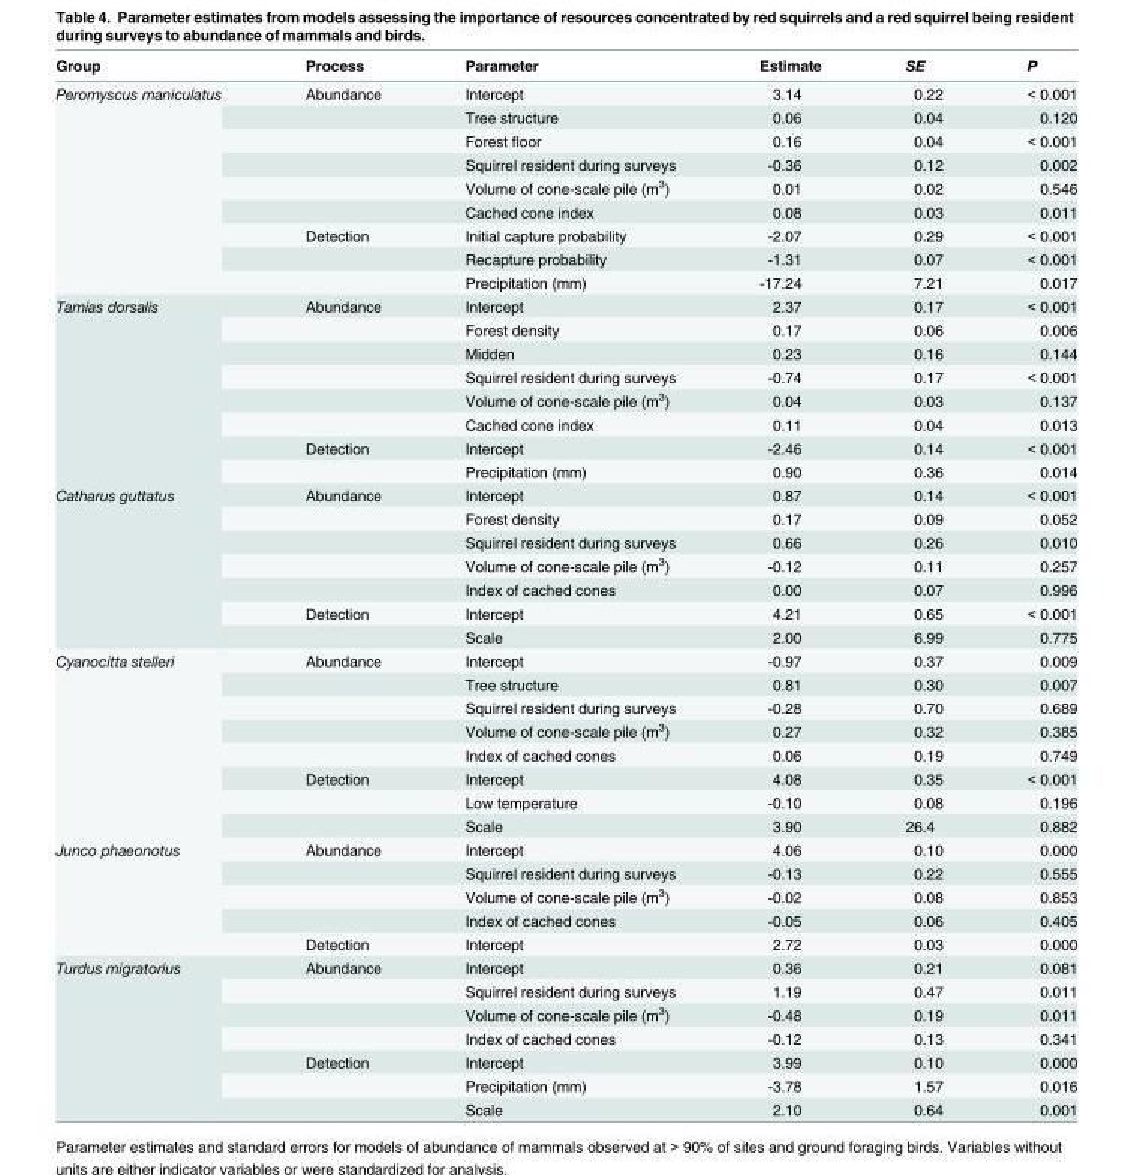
<table><thead><tr><td>Group</td><td>Process</td><td>Parameter</td><td>Estimate</td><td>SE</td><td>P</td></tr></thead><tbody><tr><td rowspan="9">Peromyscus maniculatus</td><td>Abundance</td><td>Intercept</td><td>3.14</td><td>0.22</td><td>&lt; 0.001</td></tr><tr><td></td><td>Tree structure</td><td>0.06</td><td>0.04</td><td>0.120</td></tr><tr><td></td><td>Forest floor</td><td>0.16</td><td>0.04</td><td>&lt; 0.001</td></tr><tr><td></td><td>Squirrel resident during surveys</td><td>-0.36</td><td>0.12</td><td>0.002</td></tr><tr><td></td><td>Volume of cone-scale pile (m<sup>3</sup>)</td><td>0.01</td><td>0.02</td><td>0.546</td></tr><tr><td></td><td>Cached cone index</td><td>0.08</td><td>0.03</td><td>0.011</td></tr><tr><td>Detection</td><td>Initial capture probability</td><td>-2.07</td><td>0.29</td><td>&lt; 0.001</td></tr><tr><td></td><td>Recapture probability</td><td>-1.31</td><td>0.07</td><td>&lt; 0.001</td></tr><tr><td></td><td>Precipitation (mm)</td><td>-17.24</td><td>7.21</td><td>0.017</td></tr><tr><td rowspan="8">Tamias dorsalis</td><td>Abundance</td><td>Intercept</td><td>2.37</td><td>0.17</td><td>&lt; 0.001</td></tr><tr><td></td><td>Forest density</td><td>0.17</td><td>0.06</td><td>0.006</td></tr><tr><td></td><td>Midden</td><td>0.23</td><td>0.16</td><td>0.144</td></tr><tr><td></td><td>Squirrel resident during surveys</td><td>-0.74</td><td>0.17</td><td>&lt; 0.001</td></tr><tr><td></td><td>Volume of cone-scale pile (m<sup>3</sup>)</td><td>0.04</td><td>0.03</td><td>0.137</td></tr><tr><td></td><td>Cached cone index</td><td>0.11</td><td>0.04</td><td>0.013</td></tr><tr><td>Detection</td><td>Intercept</td><td>-2.46</td><td>0.14</td><td>&lt; 0.001</td></tr><tr><td></td><td>Precipitation (mm)</td><td>0.90</td><td>0.36</td><td>0.014</td></tr><tr><td rowspan="7">Catharus guttatus</td><td>Abundance</td><td>Intercept</td><td>0.87</td><td>0.14</td><td>&lt; 0.001</td></tr><tr><td></td><td>Forest density</td><td>0.17</td><td>0.09</td><td>0.052</td></tr><tr><td></td><td>Squirrel resident during surveys</td><td>0.66</td><td>0.26</td><td>0.010</td></tr><tr><td></td><td>Volume of cone-scale pile (m<sup>3</sup>)</td><td>-0.12</td><td>0.11</td><td>0.257</td></tr><tr><td></td><td>Index of cached cones</td><td>0.00</td><td>0.07</td><td>0.996</td></tr><tr><td>Detection</td><td>Intercept</td><td>4.21</td><td>0.65</td><td>&lt; 0.001</td></tr><tr><td></td><td>Scale</td><td>2.00</td><td>6.99</td><td>0.775</td></tr><tr><td rowspan="8">Cyanocitta stelleri</td><td>Abundance</td><td>Intercept</td><td>-0.97</td><td>0.37</td><td>0.009</td></tr><tr><td></td><td>Tree structure</td><td>0.81</td><td>0.30</td><td>0.007</td></tr><tr><td></td><td>Squirrel resident during surveys</td><td>-0.28</td><td>0.70</td><td>0.689</td></tr><tr><td></td><td>Volume of cone-scale pile (m<sup>3</sup>)</td><td>0.27</td><td>0.32</td><td>0.385</td></tr><tr><td></td><td>Index of cached cones</td><td>0.06</td><td>0.19</td><td>0.749</td></tr><tr><td>Detection</td><td>Intercept</td><td>4.08</td><td>0.35</td><td>&lt; 0.001</td></tr><tr><td></td><td>Low temperature</td><td>-0.10</td><td>0.08</td><td>0.196</td></tr><tr><td></td><td>Scale</td><td>3.90</td><td>26.4</td><td>0.882</td></tr><tr><td rowspan="5">Junco phaeonotus</td><td>Abundance</td><td>Intercept</td><td>4.06</td><td>0.10</td><td>0.000</td></tr><tr><td></td><td>Squirrel resident during surveys</td><td>-0.13</td><td>0.22</td><td>0.555</td></tr><tr><td></td><td>Volume of cone-scale pile (m<sup>3</sup>)</td><td>-0.02</td><td>0.08</td><td>0.853</td></tr><tr><td></td><td>Index of cached cones</td><td>-0.05</td><td>0.06</td><td>0.405</td></tr><tr><td>Detection</td><td>Intercept</td><td>2.72</td><td>0.03</td><td>0.000</td></tr><tr><td rowspan="7">Turdus migratorius</td><td>Abundance</td><td>Intercept</td><td>0.36</td><td>0.21</td><td>0.081</td></tr><tr><td></td><td>Squirrel resident during surveys</td><td>1.19</td><td>0.47</td><td>0.011</td></tr><tr><td></td><td>Volume of cone-scale pile (m<sup>3</sup>)</td><td>-0.48</td><td>0.19</td><td>0.011</td></tr><tr><td></td><td>Index of cached cones</td><td>-0.12</td><td>0.13</td><td>0.341</td></tr><tr><td>Detection</td><td>Intercept</td><td>3.99</td><td>0.10</td><td>0.000</td></tr><tr><td></td><td>Precipitation (mm)</td><td>-3.78</td><td>1.57</td><td>0.016</td></tr><tr><td></td><td>Scale</td><td>2.10</td><td>0.64</td><td>0.001</td></tr></tbody></table>